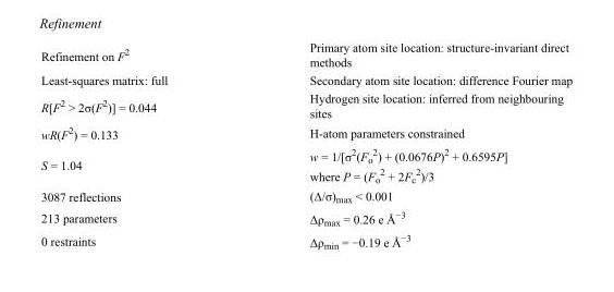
<table><tbody><tr><td>Refinement on F<sup>2</sup></td><td>Primary atom site location: structure-invariant direct methods</td></tr><tr><td>Least-squares matrix: full</td><td>Secondary atom site location: difference Fourier map</td></tr><tr><td>R[F<sup>2</sup> &gt; 2σ(F<sup>2</sup>)] = 0.044</td><td>Hydrogen site location: inferred from neighbouring sites</td></tr><tr><td>wR(F<sup>2</sup>) = 0.133</td><td>H-atom parameters constrained</td></tr><tr><td>S = 1.04</td><td>w = 1/[σ<sup>2</sup>(F<sub>o</sub> <sup>2</sup>) + (0.0676P)<sup>2</sup> + 0.6595P] where P = (F<sub>o</sub> <sup>2</sup> + 2F<sub>c</sub> <sup>2</sup>)/3</td></tr><tr><td>3087 reflections</td><td>(Δ/σ)<sub>max</sub> &lt; 0.001</td></tr><tr><td>213 parameters</td><td>Δρ<sub>max</sub> = 0.26 e Å<sup>−3</sup></td></tr><tr><td>0 restraints</td><td>Δρ<sub>min</sub> = −0.19 e Å<sup>−3</sup></td></tr></tbody></table>